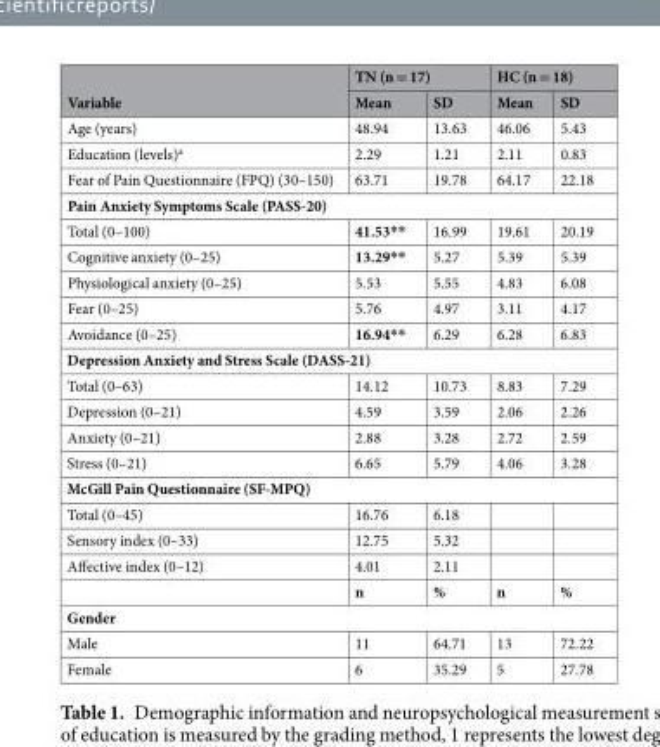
<table><thead><tr><td rowspan="2">Variable</td><td colspan="2">TN (n = 17)</td><td colspan="2">HC (n = 18)</td></tr><tr><td>Mean</td><td>SD</td><td>Mean</td><td>SD</td></tr></thead><tbody><tr><td>Age (years)</td><td>48.94</td><td>13.63</td><td>46.06</td><td>5.43</td></tr><tr><td>Education (levels)<sup>a</sup></td><td>2.29</td><td>1.21</td><td>2.11</td><td>0.83</td></tr><tr><td>Fear of Pain Questionnaire (FPQ) (30–150)</td><td>63.71</td><td>19.78</td><td>64.17</td><td>22.18</td></tr><tr><td colspan="5">Pain Anxiety Symptoms Scale (PASS-20)</td></tr><tr><td>Total (0–100)</td><td>41.53**</td><td>16.99</td><td>19.61</td><td>20.19</td></tr><tr><td>Cognitive anxiety (0–25)</td><td>13.29**</td><td>5.27</td><td>5.39</td><td>5.39</td></tr><tr><td>Physiological anxiety (0–25)</td><td>5.53</td><td>5.55</td><td>4.83</td><td>6.08</td></tr><tr><td>Fear (0–25)</td><td>5.76</td><td>4.97</td><td>3.11</td><td>4.17</td></tr><tr><td>Avoidance (0–25)</td><td>16.94**</td><td>6.29</td><td>6.28</td><td>6.83</td></tr><tr><td colspan="5">Depression Anxiety and Stress Scale (DASS-21)</td></tr><tr><td>Total (0–63)</td><td>14.12</td><td>10.73</td><td>8.83</td><td>7.29</td></tr><tr><td>Depression (0–21)</td><td>4.59</td><td>3.59</td><td>2.06</td><td>2.26</td></tr><tr><td>Anxiety (0–21)</td><td>2.88</td><td>3.28</td><td>2.72</td><td>2.59</td></tr><tr><td>Stress (0–21)</td><td>6.65</td><td>5.79</td><td>4.06</td><td>3.28</td></tr><tr><td colspan="5">McGill Pain Questionnaire (SF-MPQ)</td></tr><tr><td>Total (0–45)</td><td>16.76</td><td>6.18</td><td></td><td></td></tr><tr><td>Sensory index (0–33)</td><td>12.75</td><td>5.32</td><td></td><td></td></tr><tr><td rowspan="2">Affective index (0–12)</td><td>4.01</td><td>2.11</td><td></td><td></td></tr><tr><td>n</td><td>%</td><td>n</td><td>%</td></tr><tr><td colspan="5">Gender</td></tr><tr><td>Male</td><td>11</td><td>64.71</td><td>13</td><td>72.22</td></tr><tr><td>Female</td><td>6</td><td>35.29</td><td>5</td><td>27.78</td></tr></tbody></table>